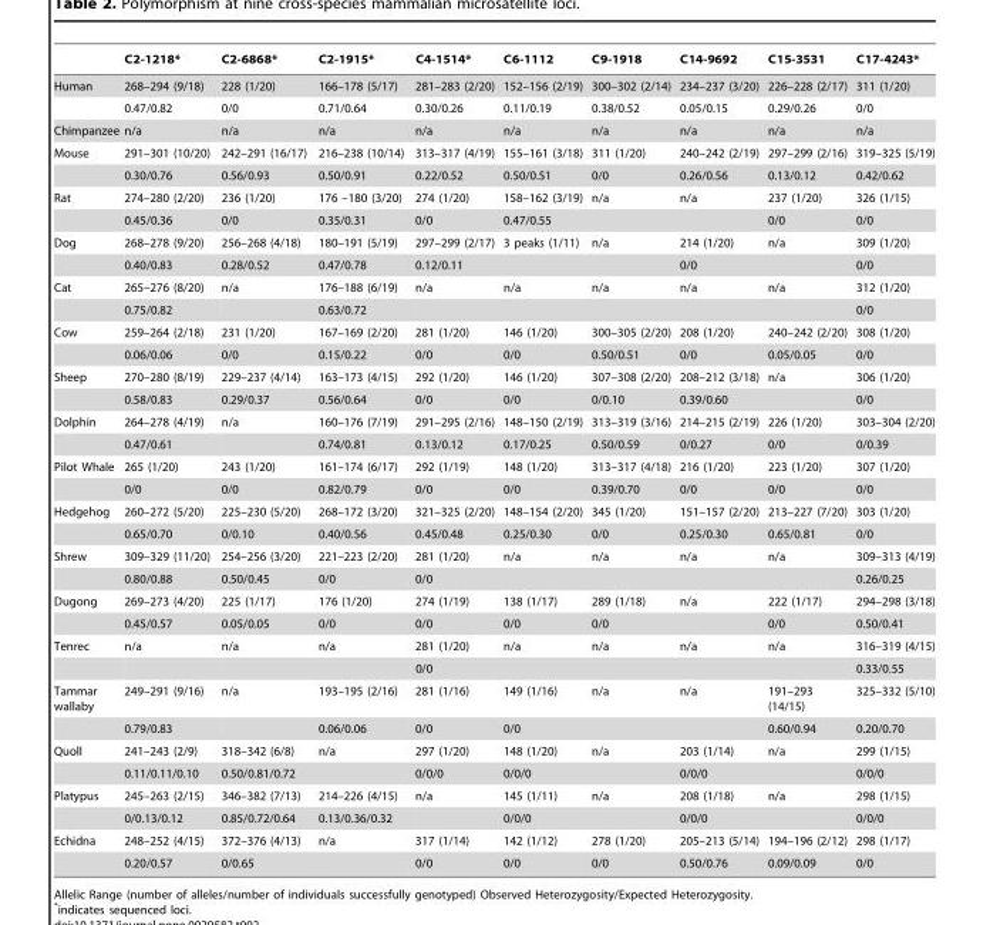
<table><thead><tr><td></td><td>C2-1218*</td><td>C2-6868*</td><td>C2-1915*</td><td>C4-1514*</td><td>C6-1112</td><td>C9-1918</td><td>C14-9692</td><td>C15-3531</td><td>C17-4243*</td></tr></thead><tbody><tr><td rowspan="2">Human</td><td>268–294 (9/18)</td><td>228 (1/20)</td><td>166–178 (5/17)</td><td>281–283 (2/20)</td><td>152–156 (2/19)</td><td>300–302 (2/14)</td><td>234–237 (3/20)</td><td>226–228 (2/17)</td><td>311 (1/20)</td></tr><tr><td>0.47/0.82</td><td>0/0</td><td>0.71/0.64</td><td>0.30/0.26</td><td>0.11/0.19</td><td>0.38/0.52</td><td>0.05/0.15</td><td>0.29/0.26</td><td>0/0</td></tr><tr><td>Chimpanzee</td><td>n/a</td><td>n/a</td><td>n/a</td><td>n/a</td><td>n/a</td><td>n/a</td><td>n/a</td><td>n/a</td><td>n/a</td></tr><tr><td rowspan="2">Mouse</td><td>291–301 (10/20)</td><td>242–291 (16/17)</td><td>216–238 (10/14)</td><td>313–317 (4/19)</td><td>155–161 (3/18)</td><td>311 (1/20)</td><td>240–242 (2/19)</td><td>297–299 (2/16)</td><td>319–325 (5/19)</td></tr><tr><td>0.30/0.76</td><td>0.56/0.93</td><td>0.50/0.91</td><td>0.22/0.52</td><td>0.50/0.51</td><td>0/0</td><td>0.26/0.56</td><td>0.13/0.12</td><td>0.42/0.62</td></tr><tr><td rowspan="2">Rat</td><td>274–280 (2/20)</td><td>236 (1/20)</td><td>176 –180 (3/20)</td><td>274 (1/20)</td><td>158–162 (3/19)</td><td>n/a</td><td>n/a</td><td>237 (1/20)</td><td>326 (1/15)</td></tr><tr><td>0.45/0.36</td><td>0/0</td><td>0.35/0.31</td><td>0/0</td><td>0.47/0.55</td><td></td><td></td><td>0/0</td><td>0/0</td></tr><tr><td rowspan="2">Dog</td><td>268–278 (9/20)</td><td>256–268 (4/18)</td><td>180–191 (5/19)</td><td>297–299 (2/17)</td><td>3 peaks (1/11)</td><td>n/a</td><td>214 (1/20)</td><td>n/a</td><td>309 (1/20)</td></tr><tr><td>0.40/0.83</td><td>0.28/0.52</td><td>0.47/0.78</td><td>0.12/0.11</td><td></td><td></td><td>0/0</td><td></td><td>0/0</td></tr><tr><td rowspan="2">Cat</td><td>265–276 (8/20)</td><td>n/a</td><td>176–188 (6/19)</td><td>n/a</td><td>n/a</td><td>n/a</td><td>n/a</td><td>n/a</td><td>312 (1/20)</td></tr><tr><td>0.75/0.82</td><td></td><td>0.63/0.72</td><td></td><td></td><td></td><td></td><td></td><td>0/0</td></tr><tr><td rowspan="2">Cow</td><td>259–264 (2/18)</td><td>231 (1/20)</td><td>167–169 (2/20)</td><td>281 (1/20)</td><td>146 (1/20)</td><td>300–305 (2/20)</td><td>208 (1/20)</td><td>240–242 (2/20)</td><td>308 (1/20)</td></tr><tr><td>0.06/0.06</td><td>0/0</td><td>0.15/0.22</td><td>0/0</td><td>0/0</td><td>0.50/0.51</td><td>0/0</td><td>0.05/0.05</td><td>0/0</td></tr><tr><td rowspan="2">Sheep</td><td>270–280 (8/19)</td><td>229–237 (4/14)</td><td>163–173 (4/15)</td><td>292 (1/20)</td><td>146 (1/20)</td><td>307–308 (2/20)</td><td>208–212 (3/18)</td><td>n/a</td><td>306 (1/20)</td></tr><tr><td>0.58/0.83</td><td>0.29/0.37</td><td>0.56/0.64</td><td>0/0</td><td>0/0</td><td>0/0.10</td><td>0.39/0.60</td><td></td><td>0/0</td></tr><tr><td rowspan="2">Dolphin</td><td>264–278 (4/19)</td><td>n/a</td><td>160–176 (7/19)</td><td>291–295 (2/16)</td><td>148–150 (2/19)</td><td>313–319 (3/16)</td><td>214–215 (2/19)</td><td>226 (1/20)</td><td>303–304 (2/20)</td></tr><tr><td>0.47/0.61</td><td></td><td>0.74/0.81</td><td>0.13/0.12</td><td>0.17/0.25</td><td>0.50/0.59</td><td>0/0.27</td><td>0/0</td><td>0/0.39</td></tr><tr><td rowspan="2">Pilot Whale</td><td>265 (1/20)</td><td>243 (1/20)</td><td>161–174 (6/17)</td><td>292 (1/19)</td><td>148 (1/20)</td><td>313–317 (4/18)</td><td>216 (1/20)</td><td>223 (1/20)</td><td>307 (1/20)</td></tr><tr><td>0/0</td><td>0/0</td><td>0.82/0.79</td><td>0/0</td><td>0/0</td><td>0.39/0.70</td><td>0/0</td><td>0/0</td><td>0/0</td></tr><tr><td rowspan="2">Hedgehog</td><td>260–272 (5/20)</td><td>225–230 (5/20)</td><td>268–172 (3/20)</td><td>321–325 (2/20)</td><td>148–154 (2/20)</td><td>345 (1/20)</td><td>151–157 (2/20)</td><td>213–227 (7/20)</td><td>303 (1/20)</td></tr><tr><td>0.65/0.70</td><td>0/0.10</td><td>0.40/0.56</td><td>0.45/0.48</td><td>0.25/0.30</td><td>0/0</td><td>0.25/0.30</td><td>0.65/0.81</td><td>0/0</td></tr><tr><td rowspan="2">Shrew</td><td>309–329 (11/20)</td><td>254–256 (3/20)</td><td>221–223 (2/20)</td><td>281 (1/20)</td><td>n/a</td><td>n/a</td><td>n/a</td><td>n/a</td><td>309–313 (4/19)</td></tr><tr><td>0.80/0.88</td><td>0.50/0.45</td><td>0/0</td><td>0/0</td><td></td><td></td><td></td><td></td><td>0.26/0.25</td></tr><tr><td rowspan="2">Dugong</td><td>269–273 (4/20)</td><td>225 (1/17)</td><td>176 (1/20)</td><td>274 (1/19)</td><td>138 (1/17)</td><td>289 (1/18)</td><td>n/a</td><td>222 (1/17)</td><td>294–298 (3/18)</td></tr><tr><td>0.45/0.57</td><td>0.05/0.05</td><td>0/0</td><td>0/0</td><td>0/0</td><td>0/0</td><td></td><td>0/0</td><td>0.50/0.41</td></tr><tr><td rowspan="2">Tenrec</td><td>n/a</td><td>n/a</td><td>n/a</td><td>281 (1/20)</td><td>n/a</td><td>n/a</td><td>n/a</td><td>n/a</td><td>316–319 (4/15)</td></tr><tr><td></td><td></td><td></td><td>0/0</td><td></td><td></td><td></td><td></td><td>0.33/0.55</td></tr><tr><td rowspan="2">Tammar wallaby</td><td>249–291 (9/16)</td><td>n/a</td><td>193–195 (2/16)</td><td>281 (1/16)</td><td>149 (1/16)</td><td>n/a</td><td>n/a</td><td>191–293 (14/15)</td><td>325–332 (5/10)</td></tr><tr><td>0.79/0.83</td><td></td><td>0.06/0.06</td><td>0/0</td><td>0/0</td><td></td><td></td><td>0.60/0.94</td><td>0.20/0.70</td></tr><tr><td rowspan="2">Quoll</td><td>241–243 (2/9)</td><td>318–342 (6/8)</td><td>n/a</td><td>297 (1/20)</td><td>148 (1/20)</td><td>n/a</td><td>203 (1/14)</td><td>n/a</td><td>299 (1/15)</td></tr><tr><td>0.11/0.11/0.10</td><td>0.50/0.81/0.72</td><td></td><td>0/0/0</td><td>0/0/0</td><td></td><td>0/0/0</td><td></td><td>0/0/0</td></tr><tr><td rowspan="2">Platypus</td><td>245–263 (2/15)</td><td>346–382 (7/13)</td><td>214–226 (4/15)</td><td>n/a</td><td>145 (1/11)</td><td>n/a</td><td>208 (1/18)</td><td>n/a</td><td>298 (1/15)</td></tr><tr><td>0/0.13/0.12</td><td>0.85/0.72/0.64</td><td>0.13/0.36/0.32</td><td></td><td>0/0/0</td><td></td><td>0/0/0</td><td></td><td>0/0/0</td></tr><tr><td rowspan="2">Echidna</td><td>248–252 (4/15)</td><td>372–376 (4/13)</td><td>n/a</td><td>317 (1/14)</td><td>142 (1/12)</td><td>278 (1/20)</td><td>205–213 (5/14)</td><td>194–196 (2/12)</td><td>298 (1/17)</td></tr><tr><td>0.20/0.57</td><td>0/0.65</td><td></td><td>0/0</td><td>0/0</td><td>0/0</td><td>0.50/0.76</td><td>0.09/0.09</td><td>0/0</td></tr></tbody></table>